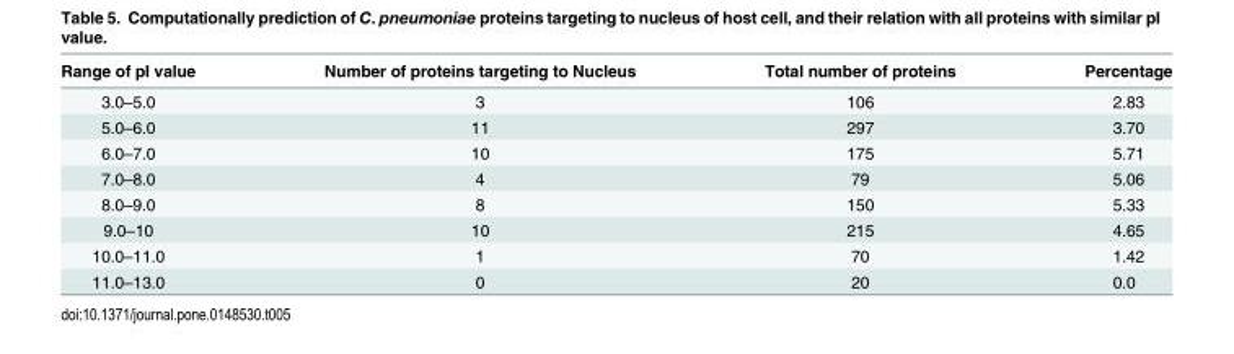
<table><thead><tr><td>Range of pI value</td><td>Number of proteins targeting to Nucleus</td><td>Total number of proteins</td><td>Percentage</td></tr></thead><tbody><tr><td>3.0–5.0</td><td>3</td><td>106</td><td>2.83</td></tr><tr><td>5.0–6.0</td><td>11</td><td>297</td><td>3.70</td></tr><tr><td>6.0–7.0</td><td>10</td><td>175</td><td>5.71</td></tr><tr><td>7.0–8.0</td><td>4</td><td>79</td><td>5.06</td></tr><tr><td>8.0–9.0</td><td>8</td><td>150</td><td>5.33</td></tr><tr><td>9.0–10</td><td>10</td><td>215</td><td>4.65</td></tr><tr><td>10.0–11.0</td><td>1</td><td>70</td><td>1.42</td></tr><tr><td>11.0–13.0</td><td>0</td><td>20</td><td>0.0</td></tr></tbody></table>